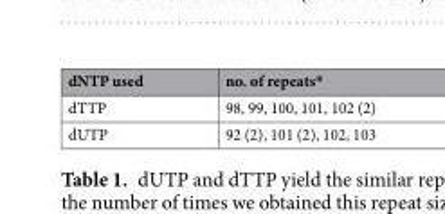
<table><thead><tr><td>dNTP used</td><td>no. of repeats*</td></tr></thead><tbody><tr><td>dTTP</td><td>98, 99, 100, 101, 102 (2)</td></tr><tr><td>dUTP</td><td>92 (2), 101 (2), 102, 103</td></tr></tbody></table>